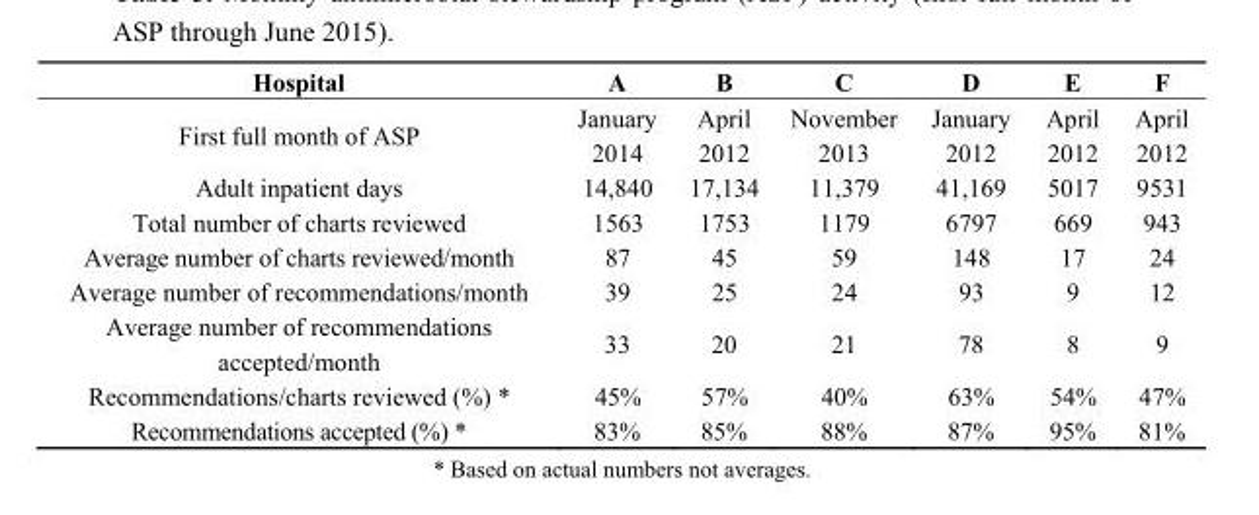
<table><thead><tr><td>Hospital</td><td>A</td><td>B</td><td>C</td><td>D</td><td>E</td><td>F</td></tr></thead><tbody><tr><td>First full month of ASP</td><td>January 2014</td><td>April 2012</td><td>November 2013</td><td>January 2012</td><td>April 2012</td><td>April 2012</td></tr><tr><td>Adult inpatient days</td><td>14,840</td><td>17,134</td><td>11,379</td><td>41,169</td><td>5017</td><td>9531</td></tr><tr><td>Total number of charts reviewed</td><td>1563</td><td>1753</td><td>1179</td><td>6797</td><td>669</td><td>943</td></tr><tr><td>Average number of charts reviewed/month</td><td>87</td><td>45</td><td>59</td><td>148</td><td>17</td><td>24</td></tr><tr><td>Average number of recommendations/month</td><td>39</td><td>25</td><td>24</td><td>93</td><td>9</td><td>12</td></tr><tr><td>Average number of recommendations accepted/month</td><td>33</td><td>20</td><td>21</td><td>78</td><td>8</td><td>9</td></tr><tr><td>Recommendations/charts reviewed (%) *</td><td>45%</td><td>57%</td><td>40%</td><td>63%</td><td>54%</td><td>47%</td></tr><tr><td>Recommendations accepted (%) *</td><td>83%</td><td>85%</td><td>88%</td><td>87%</td><td>95%</td><td>81%</td></tr></tbody></table>